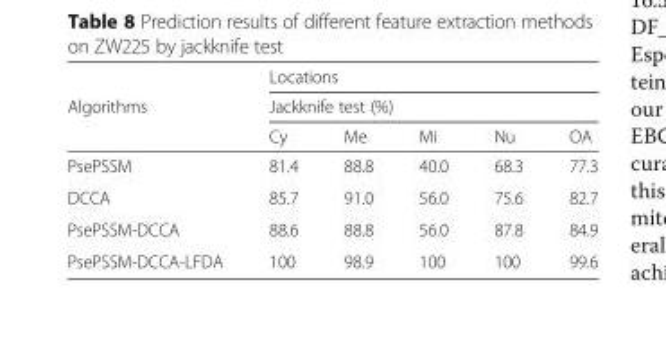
<table><thead><tr><td rowspan="3">Algorithms</td><td rowspan="2" colspan="5">Locations Jackknife test (%)</td></tr><tr></tr><tr><td>Cy</td><td>Me</td><td>Mi</td><td>Nu</td><td>OA</td></tr></thead><tbody><tr><td>PsePSSM</td><td>81.4</td><td>88.8</td><td>40.0</td><td>68.3</td><td>77.3</td></tr><tr><td>DCCA</td><td>85.7</td><td>91.0</td><td>56.0</td><td>75.6</td><td>82.7</td></tr><tr><td>PsePSSM-DCCA</td><td>88.6</td><td>88.8</td><td>56.0</td><td>87.8</td><td>84.9</td></tr><tr><td>PsePSSM-DCCA-LFDA</td><td>100</td><td>98.9</td><td>100</td><td>100</td><td>99.6</td></tr></tbody></table>